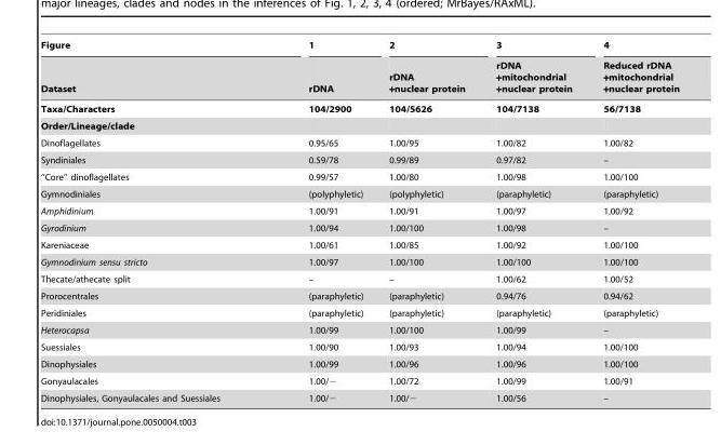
<table><thead><tr><td rowspan="2">Figure Dataset</td><td rowspan="2">1 rDNA</td><td rowspan="2">2 rDNA +nuclear protein</td><td rowspan="2">3 rDNA +mitochondrial +nuclear protein</td><td rowspan="2">4 Reduced rDNA +mitochondrial +nuclear protein</td></tr><tr></tr></thead><tbody><tr><td>Taxa/Characters</td><td>104/2900</td><td>104/5626</td><td>104/7138</td><td>56/7138</td></tr><tr><td colspan="5">Order/Lineage/clade</td></tr><tr><td>Dinoflagellates</td><td>0.95/65</td><td>1.00/95</td><td>1.00/82</td><td>1.00/82</td></tr><tr><td>Syndiniales</td><td>0.59/78</td><td>0.99/89</td><td>0.97/82</td><td>–</td></tr><tr><td>‘‘Core’’ dinoflagellates</td><td>0.99/57</td><td>1.00/80</td><td>1.00/98</td><td>1.00/100</td></tr><tr><td>Gymnodiniales</td><td>(polyphyletic)</td><td>(polyphyletic)</td><td>(paraphyletic)</td><td>(paraphyletic)</td></tr><tr><td>Amphidinium</td><td>1.00/91</td><td>1.00/91</td><td>1.00/97</td><td>1.00/92</td></tr><tr><td>Gyrodinium</td><td>1.00/94</td><td>1.00/100</td><td>1.00/98</td><td>–</td></tr><tr><td>Kareniaceae</td><td>1.00/61</td><td>1.00/85</td><td>1.00/92</td><td>1.00/100</td></tr><tr><td>Gymnodinium sensu stricto</td><td>1.00/97</td><td>1.00/100</td><td>1.00/100</td><td>1.00/100</td></tr><tr><td>Thecate/athecate split</td><td>–</td><td>–</td><td>1.00/62</td><td>1.00/52</td></tr><tr><td>Prorocentrales</td><td>(paraphyletic)</td><td>(paraphyletic)</td><td>0.94/76</td><td>0.94/62</td></tr><tr><td>Peridiniales</td><td>(paraphyletic)</td><td>(paraphyletic)</td><td>(paraphyletic)</td><td>(paraphyletic)</td></tr><tr><td>Heterocapsa</td><td>1.00/99</td><td>1.00/100</td><td>1.00/99</td><td>–</td></tr><tr><td>Suessiales</td><td>1.00/90</td><td>1.00/93</td><td>1.00/94</td><td>1.00/100</td></tr><tr><td>Dinophysiales</td><td>1.00/99</td><td>1.00/96</td><td>1.00/96</td><td>1.00/100</td></tr><tr><td>Gonyaulacales</td><td>1.00/−</td><td>1.00/72</td><td>1.00/99</td><td>1.00/91</td></tr><tr><td>Dinophysiales, Gonyaulacales and Suessiales</td><td>1.00/−</td><td>1.00/−</td><td>1.00/56</td><td>–</td></tr></tbody></table>